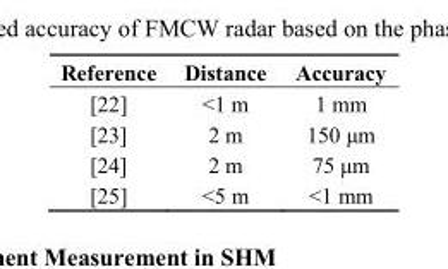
<table><thead><tr><td>Reference</td><td>Distance</td><td>Accuracy</td></tr></thead><tbody><tr><td>[22]</td><td>&lt;1 m</td><td>1 mm</td></tr><tr><td>[23]</td><td>2 m</td><td>150 μm</td></tr><tr><td>[24]</td><td>2 m</td><td>75 μm</td></tr><tr><td>[25]</td><td>&lt;5 m</td><td>&lt;1 mm</td></tr></tbody></table>